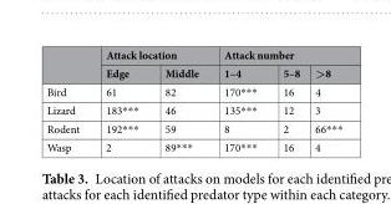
<table><thead><tr><td rowspan="2"></td><td colspan="2">Attack location</td><td colspan="3">Attack number</td></tr><tr><td>Edge</td><td>Middle</td><td>1–4</td><td>5–8</td><td>&gt;8</td></tr></thead><tbody><tr><td>Bird</td><td>61</td><td>82</td><td>170***</td><td>16</td><td>4</td></tr><tr><td>Lizard</td><td>183***</td><td>46</td><td>135***</td><td>12</td><td>3</td></tr><tr><td>Rodent</td><td>192***</td><td>59</td><td>8</td><td>2</td><td>66***</td></tr><tr><td>Wasp</td><td>2</td><td>89***</td><td>170***</td><td>16</td><td>4</td></tr></tbody></table>